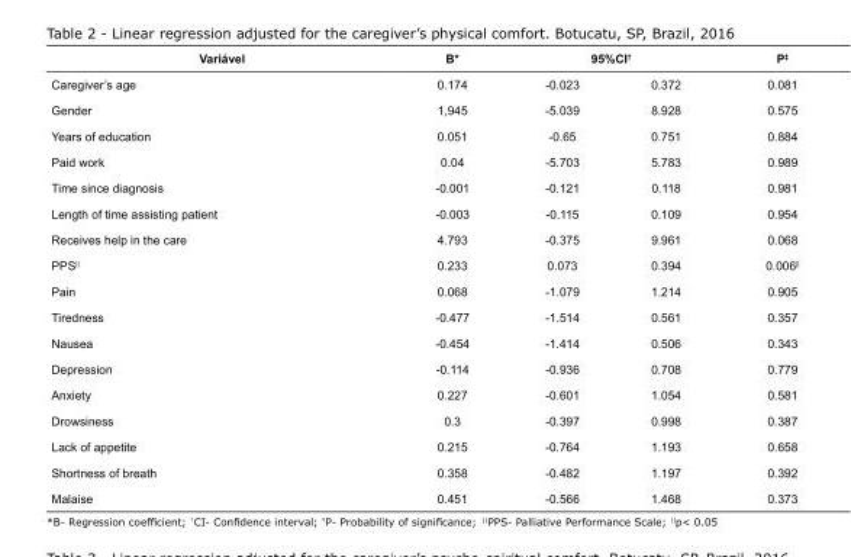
<table><tbody><tr><td>Variável</td><td>B*</td><td colspan="2">95%CI<sup>†</sup></td><td>P<sup>‡</sup></td></tr><tr><td>Caregiver’s age</td><td>0.174</td><td>-0.023</td><td>0.372</td><td>0.081</td></tr><tr><td>Gender</td><td>1,945</td><td>-5.039</td><td>8.928</td><td>0.575</td></tr><tr><td>Years of education</td><td>0.051</td><td>-0.65</td><td>0.751</td><td>0.884</td></tr><tr><td>Paid work</td><td>0.04</td><td>-5.703</td><td>5.783</td><td>0.989</td></tr><tr><td>Time since diagnosis</td><td>-0.001</td><td>-0.121</td><td>0.118</td><td>0.981</td></tr><tr><td>Length of time assisting patient</td><td>-0.003</td><td>-0.115</td><td>0.109</td><td>0.954</td></tr><tr><td>Receives help in the care</td><td>4.793</td><td>-0.375</td><td>9.961</td><td>0.068</td></tr><tr><td>PPS<sup>||</sup></td><td>0.233</td><td>0.073</td><td>0.394</td><td>0.006<sup>||</sup></td></tr><tr><td>Pain</td><td>0.068</td><td>-1.079</td><td>1.214</td><td>0.905</td></tr><tr><td>Tiredness</td><td>-0.477</td><td>-1.514</td><td>0.561</td><td>0.357</td></tr><tr><td>Nausea</td><td>-0.454</td><td>-1.414</td><td>0.506</td><td>0.343</td></tr><tr><td>Depression</td><td>-0.114</td><td>-0.936</td><td>0.708</td><td>0.779</td></tr><tr><td>Anxiety</td><td>0.227</td><td>-0.601</td><td>1.054</td><td>0.581</td></tr><tr><td>Drowsiness</td><td>0.3</td><td>-0.397</td><td>0.998</td><td>0.387</td></tr><tr><td>Lack of appetite</td><td>0.215</td><td>-0.764</td><td>1.193</td><td>0.658</td></tr><tr><td>Shortness of breath</td><td>0.358</td><td>-0.482</td><td>1.197</td><td>0.392</td></tr><tr><td>Malaise</td><td>0.451</td><td>-0.566</td><td>1.468</td><td>0.373</td></tr></tbody></table>